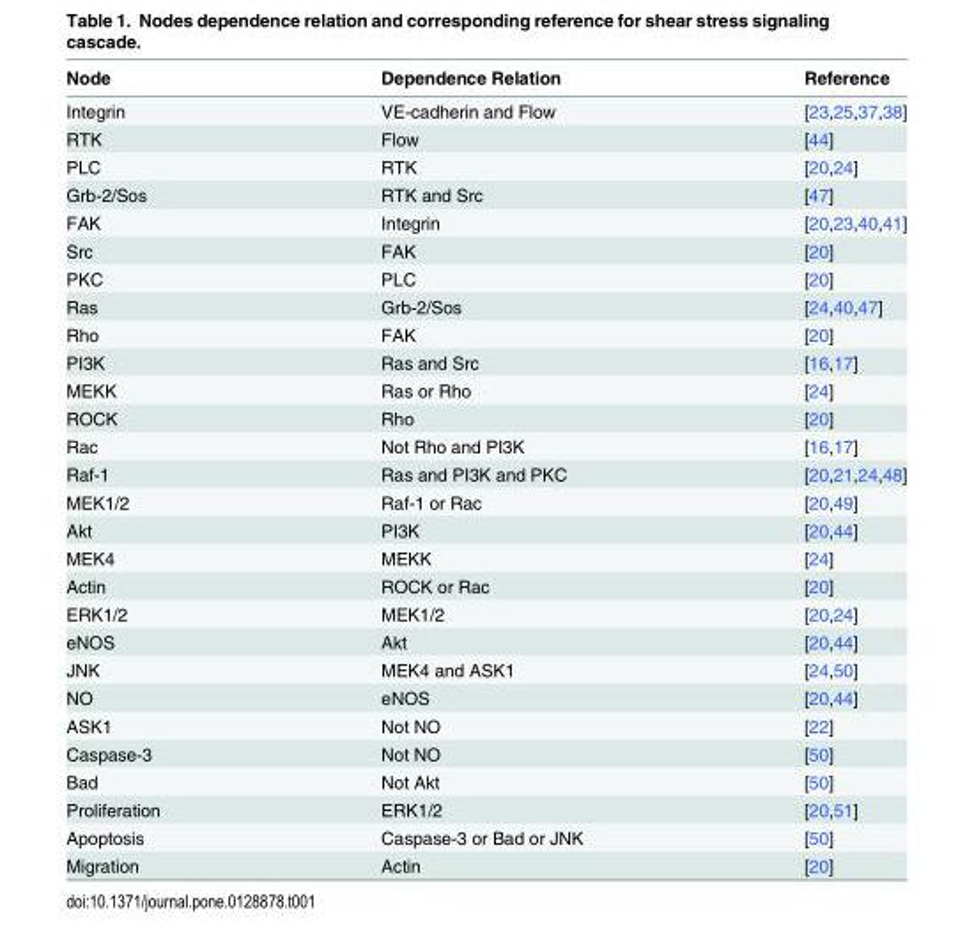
<table><thead><tr><td>Node</td><td>Dependence Relation</td><td>Reference</td></tr></thead><tbody><tr><td>Integrin</td><td>VE-cadherin and Flow</td><td>[23,25,37,38]</td></tr><tr><td>RTK</td><td>Flow</td><td>[44]</td></tr><tr><td>PLC</td><td>RTK</td><td>[20,24]</td></tr><tr><td>Grb-2/Sos</td><td>RTK and Src</td><td>[47]</td></tr><tr><td>FAK</td><td>Integrin</td><td>[20,23,40,41]</td></tr><tr><td>Src</td><td>FAK</td><td>[20]</td></tr><tr><td>PKC</td><td>PLC</td><td>[20]</td></tr><tr><td>Ras</td><td>Grb-2/Sos</td><td>[24,40,47]</td></tr><tr><td>Rho</td><td>FAK</td><td>[20]</td></tr><tr><td>PI3K</td><td>Ras and Src</td><td>[16,17]</td></tr><tr><td>MEKK</td><td>Ras or Rho</td><td>[24]</td></tr><tr><td>ROCK</td><td>Rho</td><td>[20]</td></tr><tr><td>Rac</td><td>Not Rho and PI3K</td><td>[16,17]</td></tr><tr><td>Raf-1</td><td>Ras and PI3K and PKC</td><td>[20,21,24,48]</td></tr><tr><td>MEK1/2</td><td>Raf-1 or Rac</td><td>[20,49]</td></tr><tr><td>Akt</td><td>PI3K</td><td>[20,44]</td></tr><tr><td>MEK4</td><td>MEKK</td><td>[24]</td></tr><tr><td>Actin</td><td>ROCK or Rac</td><td>[20]</td></tr><tr><td>ERK1/2</td><td>MEK1/2</td><td>[20,24]</td></tr><tr><td>eNOS</td><td>Akt</td><td>[20,44]</td></tr><tr><td>JNK</td><td>MEK4 and ASK1</td><td>[24,50]</td></tr><tr><td>NO</td><td>eNOS</td><td>[20,44]</td></tr><tr><td>ASK1</td><td>Not NO</td><td>[22]</td></tr><tr><td>Caspase-3</td><td>Not NO</td><td>[50]</td></tr><tr><td>Bad</td><td>Not Akt</td><td>[50]</td></tr><tr><td>Proliferation</td><td>ERK1/2</td><td>[20,51]</td></tr><tr><td>Apoptosis</td><td>Caspase-3 or Bad or JNK</td><td>[50]</td></tr><tr><td>Migration</td><td>Actin</td><td>[20]</td></tr></tbody></table>